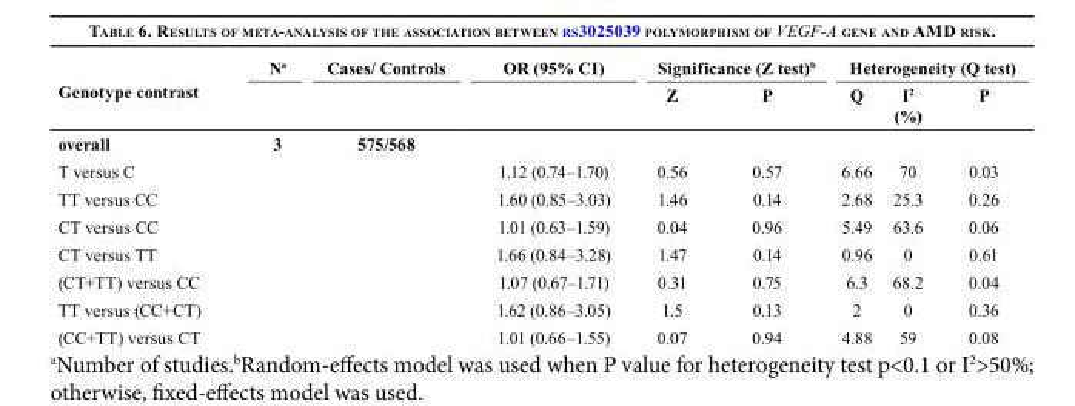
<table><thead><tr><td rowspan="2">Genotype contrast</td><td rowspan="2">N<sup>a</sup></td><td rowspan="2">Cases/ Controls</td><td rowspan="2">OR (95% CI)</td><td colspan="2">Significance (Z test)<sup>b</sup></td><td colspan="3">Heterogeneity (Q test)</td></tr><tr><td>Z</td><td>P</td><td>Q</td><td>I<sup>2</sup> (%)</td><td>P</td></tr></thead><tbody><tr><td>overall</td><td>3</td><td>575/568</td><td></td><td></td><td></td><td></td><td></td><td></td></tr><tr><td>T versus C</td><td></td><td></td><td>1.12 (0.74–1.70)</td><td>0.56</td><td>0.57</td><td>6.66</td><td>70</td><td>0.03</td></tr><tr><td>TT versus CC</td><td></td><td></td><td>1.60 (0.85–3.03)</td><td>1.46</td><td>0.14</td><td>2.68</td><td>25.3</td><td>0.26</td></tr><tr><td>CT versus CC</td><td></td><td></td><td>1.01 (0.63–1.59)</td><td>0.04</td><td>0.96</td><td>5.49</td><td>63.6</td><td>0.06</td></tr><tr><td>CT versus TT</td><td></td><td></td><td>1.66 (0.84–3.28)</td><td>1.47</td><td>0.14</td><td>0.96</td><td>0</td><td>0.61</td></tr><tr><td>(CT+TT) versus CC</td><td></td><td></td><td>1.07 (0.67–1.71)</td><td>0.31</td><td>0.75</td><td>6.3</td><td>68.2</td><td>0.04</td></tr><tr><td>TT versus (CC+CT)</td><td></td><td></td><td>1.62 (0.86–3.05)</td><td>1.5</td><td>0.13</td><td>2</td><td>0</td><td>0.36</td></tr><tr><td>(CC+TT) versus CT</td><td></td><td></td><td>1.01 (0.66–1.55)</td><td>0.07</td><td>0.94</td><td>4.88</td><td>59</td><td>0.08</td></tr></tbody></table>